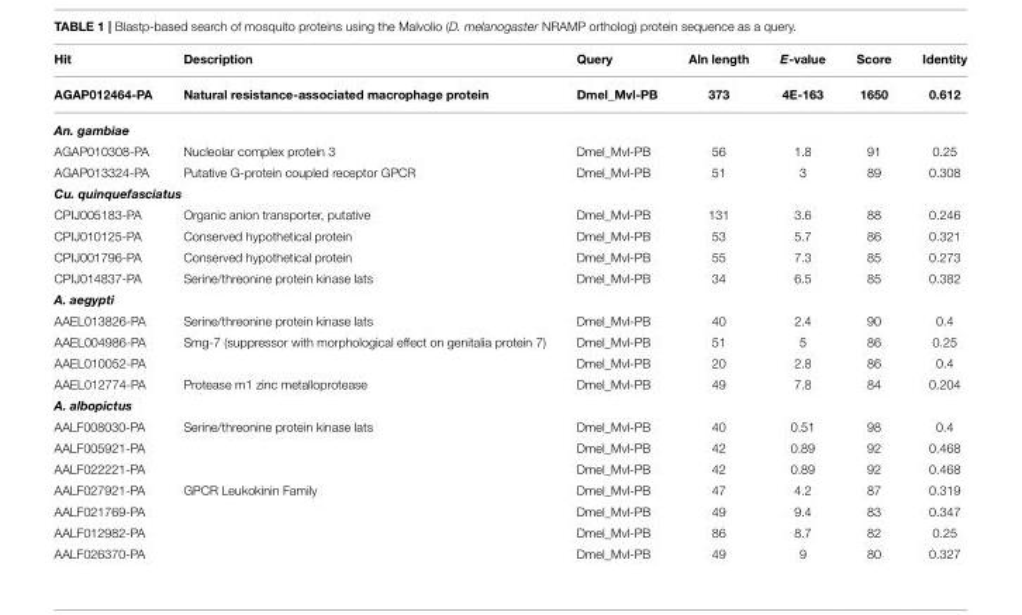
<table><thead><tr><td rowspan="2">Hit AGAP012464-PA</td><td rowspan="2">Description Natural resistance-associated macrophage protein</td><td rowspan="2">Query Dmel_Mvl-PB</td><td rowspan="2">Aln length 373</td><td rowspan="2">E-value 4E-163</td><td rowspan="2">Score 1650</td><td rowspan="2">Identity 0.612</td></tr><tr></tr></thead><tbody><tr><td colspan="7">An. gambiae</td></tr><tr><td>AGAP010308-PA</td><td>Nucleolar complex protein 3</td><td>Dmel_Mvl-PB</td><td>56</td><td>1.8</td><td>91</td><td>0.25</td></tr><tr><td>AGAP013324-PA</td><td>Putative G-protein coupled receptor GPCR</td><td>Dmel_Mvl-PB</td><td>51</td><td>3</td><td>89</td><td>0.308</td></tr><tr><td colspan="7">Cu. quinquefasciatus</td></tr><tr><td>CPIJ005183-PA</td><td>Organic anion transporter, putative</td><td>Dmel_Mvl-PB</td><td>131</td><td>3.6</td><td>88</td><td>0.246</td></tr><tr><td>CPIJ010125-PA</td><td>Conserved hypothetical protein</td><td>Dmel_Mvl-PB</td><td>53</td><td>5.7</td><td>86</td><td>0.321</td></tr><tr><td>CPIJ001796-PA</td><td>Conserved hypothetical protein</td><td>Dmel_Mvl-PB</td><td>55</td><td>7.3</td><td>85</td><td>0.273</td></tr><tr><td>CPIJ014837-PA</td><td>Serine/threonine protein kinase lats</td><td>Dmel_Mvl-PB</td><td>34</td><td>6.5</td><td>85</td><td>0.382</td></tr><tr><td colspan="7">A. aegypti</td></tr><tr><td>AAEL013826-PA</td><td>Serine/threonine protein kinase lats</td><td>Dmel_Mvl-PB</td><td>40</td><td>2.4</td><td>90</td><td>0.4</td></tr><tr><td>AAEL004986-PA</td><td>Smg-7 (suppressor with morphological effect on genitalia protein 7)</td><td>Dmel_Mvl-PB</td><td>51</td><td>5</td><td>86</td><td>0.25</td></tr><tr><td>AAEL010052-PA</td><td></td><td>Dmel_Mvl-PB</td><td>20</td><td>2.8</td><td>86</td><td>0.4</td></tr><tr><td>AAEL012774-PA</td><td>Protease m1 zinc metalloprotease</td><td>Dmel_Mvl-PB</td><td>49</td><td>7.8</td><td>84</td><td>0.204</td></tr><tr><td colspan="7">A. albopictus</td></tr><tr><td>AALF008030-PA</td><td>Serine/threonine protein kinase lats</td><td>Dmel_Mvl-PB</td><td>40</td><td>0.51</td><td>98</td><td>0.4</td></tr><tr><td>AALF005921-PA</td><td></td><td>Dmel_Mvl-PB</td><td>42</td><td>0.89</td><td>92</td><td>0.468</td></tr><tr><td>AALF022221-PA</td><td></td><td>Dmel_Mvl-PB</td><td>42</td><td>0.89</td><td>92</td><td>0.468</td></tr><tr><td>AALF027921-PA</td><td>GPCR Leukokinin Family</td><td>Dmel_Mvl-PB</td><td>47</td><td>4.2</td><td>87</td><td>0.319</td></tr><tr><td>AALF021769-PA</td><td></td><td>Dmel_Mvl-PB</td><td>49</td><td>9.4</td><td>83</td><td>0.347</td></tr><tr><td>AALF012982-PA</td><td></td><td>Dmel_Mvl-PB</td><td>86</td><td>8.7</td><td>82</td><td>0.25</td></tr><tr><td>AALF026370-PA</td><td></td><td>Dmel_Mvl-PB</td><td>49</td><td>9</td><td>80</td><td>0.327</td></tr></tbody></table>